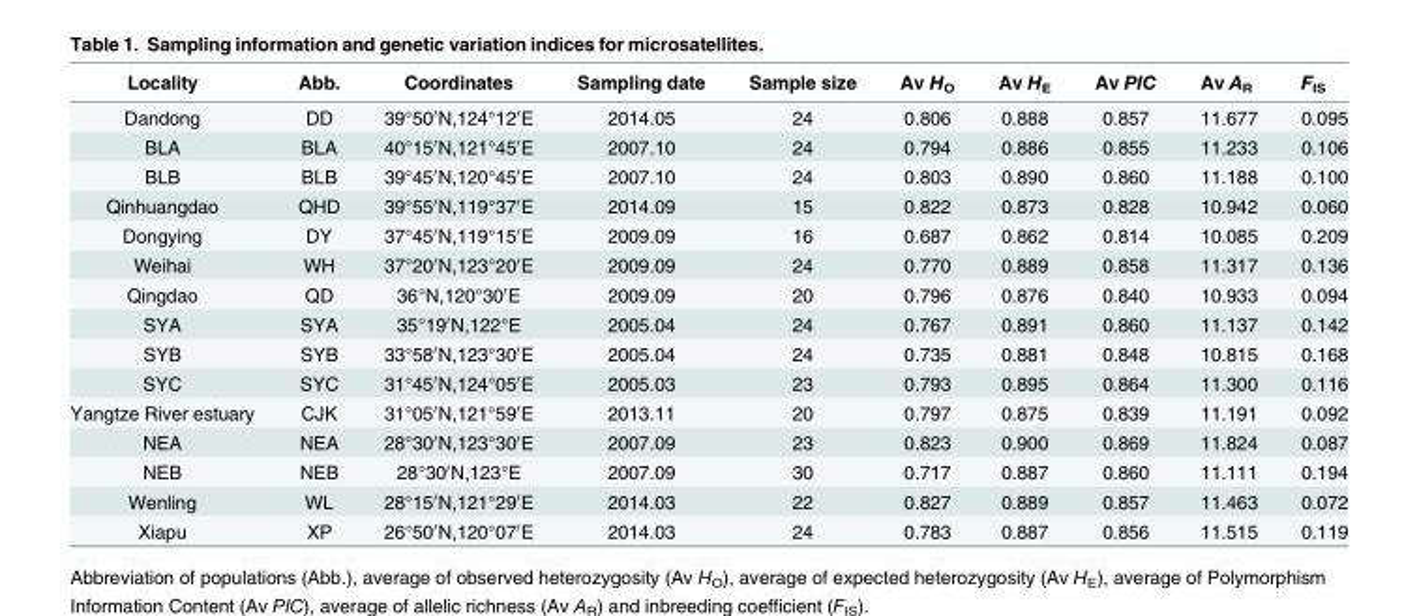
<table><thead><tr><td>Locality</td><td>Abb.</td><td>Coordinates</td><td>Sampling date</td><td>Sample size</td><td>Av H<sub>O</sub></td><td>Av H<sub>E</sub></td><td>Av PIC</td><td>Av A<sub>R</sub></td><td>F<sub>IS</sub></td></tr></thead><tbody><tr><td>Dandong</td><td>DD</td><td>39°50′N,124°12′E</td><td>2014.05</td><td>24</td><td>0.806</td><td>0.888</td><td>0.857</td><td>11.677</td><td>0.095</td></tr><tr><td>BLA</td><td>BLA</td><td>40°15′N,121°45′E</td><td>2007.10</td><td>24</td><td>0.794</td><td>0.886</td><td>0.855</td><td>11.233</td><td>0.106</td></tr><tr><td>BLB</td><td>BLB</td><td>39°45′N,120°45′E</td><td>2007.10</td><td>24</td><td>0.803</td><td>0.890</td><td>0.860</td><td>11.188</td><td>0.100</td></tr><tr><td>Qinhuangdao</td><td>QHD</td><td>39°55′N,119°37′E</td><td>2014.09</td><td>15</td><td>0.822</td><td>0.873</td><td>0.828</td><td>10.942</td><td>0.060</td></tr><tr><td>Dongying</td><td>DY</td><td>37°45′N,119°15′E</td><td>2009.09</td><td>16</td><td>0.687</td><td>0.862</td><td>0.814</td><td>10.085</td><td>0.209</td></tr><tr><td>Weihai</td><td>WH</td><td>37°20′N,123°20′E</td><td>2009.09</td><td>24</td><td>0.770</td><td>0.889</td><td>0.858</td><td>11.317</td><td>0.136</td></tr><tr><td>Qingdao</td><td>QD</td><td>36°N,120°30′E</td><td>2009.09</td><td>20</td><td>0.796</td><td>0.876</td><td>0.840</td><td>10.933</td><td>0.094</td></tr><tr><td>SYA</td><td>SYA</td><td>35°19′N,122°E</td><td>2005.04</td><td>24</td><td>0.767</td><td>0.891</td><td>0.860</td><td>11.137</td><td>0.142</td></tr><tr><td>SYB</td><td>SYB</td><td>33°58′N,123°30′E</td><td>2005.04</td><td>24</td><td>0.735</td><td>0.881</td><td>0.848</td><td>10.815</td><td>0.168</td></tr><tr><td>SYC</td><td>SYC</td><td>31°45′N,124°05′E</td><td>2005.03</td><td>23</td><td>0.793</td><td>0.895</td><td>0.864</td><td>11.300</td><td>0.116</td></tr><tr><td>Yangtze River estuary</td><td>CJK</td><td>31°05′N,121°59′E</td><td>2013.11</td><td>20</td><td>0.797</td><td>0.875</td><td>0.839</td><td>11.191</td><td>0.092</td></tr><tr><td>NEA</td><td>NEA</td><td>28°30′N,123°30′E</td><td>2007.09</td><td>23</td><td>0.823</td><td>0.900</td><td>0.869</td><td>11.824</td><td>0.087</td></tr><tr><td>NEB</td><td>NEB</td><td>28°30′N,123°E</td><td>2007.09</td><td>30</td><td>0.717</td><td>0.887</td><td>0.860</td><td>11.111</td><td>0.194</td></tr><tr><td>Wenling</td><td>WL</td><td>28°15′N,121°29′E</td><td>2014.03</td><td>22</td><td>0.827</td><td>0.889</td><td>0.857</td><td>11.463</td><td>0.072</td></tr><tr><td>Xiapu</td><td>XP</td><td>26°50′N,120°07′E</td><td>2014.03</td><td>24</td><td>0.783</td><td>0.887</td><td>0.856</td><td>11.515</td><td>0.119</td></tr></tbody></table>